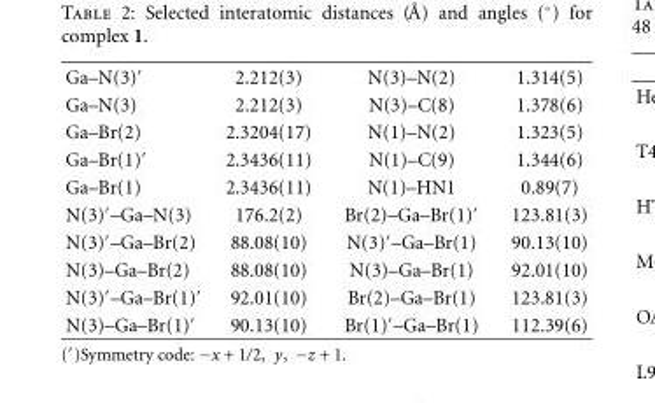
<table><tbody><tr><td>Ga–N(3)′</td><td>2.212(3)</td><td>N(3)–N(2)</td><td>1.314(5)</td></tr><tr><td>Ga–N(3)</td><td>2.212(3)</td><td>N(3)–C(8)</td><td>1.378(6)</td></tr><tr><td>Ga–Br(2)</td><td>2.3204(17)</td><td>N(1)–N(2)</td><td>1.323(5)</td></tr><tr><td>Ga–Br(1)′</td><td>2.3436(11)</td><td>N(1)–C(9)</td><td>1.344(6)</td></tr><tr><td>Ga–Br(1)</td><td>2.3436(11)</td><td>N(1)–HN1</td><td>0.89(7)</td></tr><tr><td>N(3)′–Ga–N(3)</td><td>176.2(2)</td><td>Br(2)–Ga–Br(1)′</td><td>123.81(3)</td></tr><tr><td>N(3)′–Ga–Br(2)</td><td>88.08(10)</td><td>N(3)′–Ga–Br(1)</td><td>90.13(10)</td></tr><tr><td>N(3)–Ga–Br(2)</td><td>88.08(10)</td><td>N(3)–Ga–Br(1)</td><td>92.01(10)</td></tr><tr><td>N(3)′–Ga–Br(1)′</td><td>92.01(10)</td><td>Br(2)–Ga–Br(1)</td><td>123.81(3)</td></tr><tr><td>N(3)–Ga–Br(1)′</td><td>90.13(10)</td><td>Br(1)′–Ga–Br(1)</td><td>112.39(6)</td></tr></tbody></table>